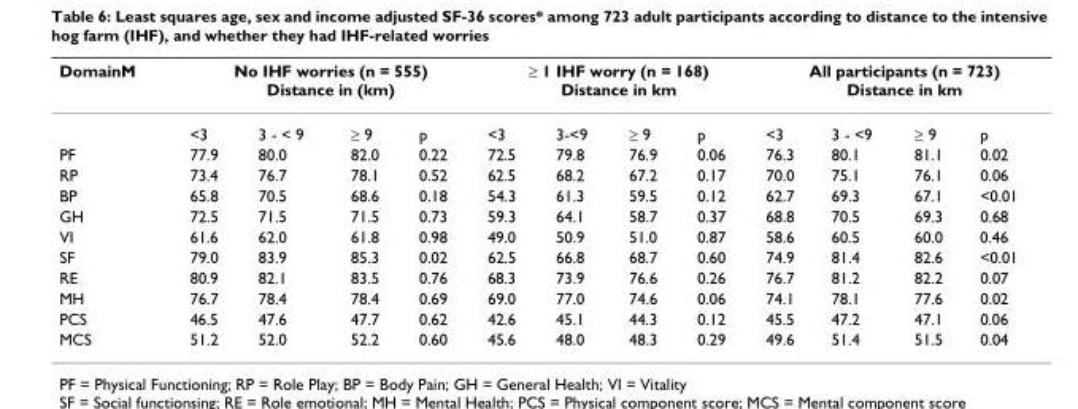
<table><thead><tr><td rowspan="2">DomainM</td><td colspan="4">No IHF worries (n = 555) Distance in (km)</td><td colspan="4">≥ 1 IHF worry (n = 168) Distance in km</td><td colspan="4">All participants (n = 723) Distance in km</td></tr><tr><td>&lt;3</td><td>3 - &lt; 9</td><td>≥ 9</td><td>p</td><td>&lt;3</td><td>3-&lt;9</td><td>≥ 9</td><td>p</td><td>&lt;3</td><td>3 - &lt;9</td><td>≥ 9</td><td>p</td></tr></thead><tbody><tr><td>PF</td><td>77.9</td><td>80.0</td><td>82.0</td><td>0.22</td><td>72.5</td><td>79.8</td><td>76.9</td><td>0.06</td><td>76.3</td><td>80.1</td><td>81.1</td><td>0.02</td></tr><tr><td>RP</td><td>73.4</td><td>76.7</td><td>78.1</td><td>0.52</td><td>62.5</td><td>68.2</td><td>67.2</td><td>0.17</td><td>70.0</td><td>75.1</td><td>76.1</td><td>0.06</td></tr><tr><td>BP</td><td>65.8</td><td>70.5</td><td>68.6</td><td>0.18</td><td>54.3</td><td>61.3</td><td>59.5</td><td>0.12</td><td>62.7</td><td>69.3</td><td>67.1</td><td>&lt;0.01</td></tr><tr><td>GH</td><td>72.5</td><td>71.5</td><td>71.5</td><td>0.73</td><td>59.3</td><td>64.1</td><td>58.7</td><td>0.37</td><td>68.8</td><td>70.5</td><td>69.3</td><td>0.68</td></tr><tr><td>VI</td><td>61.6</td><td>62.0</td><td>61.8</td><td>0.98</td><td>49.0</td><td>50.9</td><td>51.0</td><td>0.87</td><td>58.6</td><td>60.5</td><td>60.0</td><td>0.46</td></tr><tr><td>SF</td><td>79.0</td><td>83.9</td><td>85.3</td><td>0.02</td><td>62.5</td><td>66.8</td><td>68.7</td><td>0.60</td><td>74.9</td><td>81.4</td><td>82.6</td><td>&lt;0.01</td></tr><tr><td>RE</td><td>80.9</td><td>82.1</td><td>83.5</td><td>0.76</td><td>68.3</td><td>73.9</td><td>76.6</td><td>0.26</td><td>76.7</td><td>81.2</td><td>82.2</td><td>0.07</td></tr><tr><td>MH</td><td>76.7</td><td>78.4</td><td>78.4</td><td>0.69</td><td>69.0</td><td>77.0</td><td>74.6</td><td>0.06</td><td>74.1</td><td>78.1</td><td>77.6</td><td>0.02</td></tr><tr><td>PCS</td><td>46.5</td><td>47.6</td><td>47.7</td><td>0.62</td><td>42.6</td><td>45.1</td><td>44.3</td><td>0.12</td><td>45.5</td><td>47.2</td><td>47.1</td><td>0.06</td></tr><tr><td>MCS</td><td>51.2</td><td>52.0</td><td>52.2</td><td>0.60</td><td>45.6</td><td>48.0</td><td>48.3</td><td>0.29</td><td>49.6</td><td>51.4</td><td>51.5</td><td>0.04</td></tr></tbody></table>